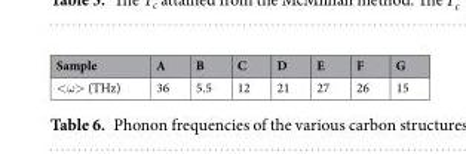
<table><thead><tr><td>Sample</td><td>A</td><td>B</td><td>C</td><td>D</td><td>E</td><td>F</td><td>G</td></tr></thead><tbody><tr><td>&lt;ω&gt; (THz)</td><td>36</td><td>5.5</td><td>12</td><td>21</td><td>27</td><td>26</td><td>15</td></tr></tbody></table>